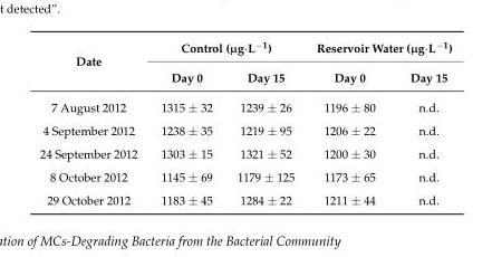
<table><thead><tr><td rowspan="2">Date</td><td colspan="2">Control (µg·L<sup>−1</sup>)</td><td colspan="2">Reservoir Water (µg·L<sup>−1</sup>)</td></tr><tr><td>Day 0</td><td>Day 15</td><td>Day 0</td><td>Day 15</td></tr></thead><tbody><tr><td>7 August 2012</td><td>1315 ± 32</td><td>1239 ± 26</td><td>1196 ± 80</td><td>n.d.</td></tr><tr><td>4 September 2012</td><td>1238 ± 35</td><td>1219 ± 95</td><td>1206 ± 22</td><td>n.d.</td></tr><tr><td>24 September 2012</td><td>1303 ± 15</td><td>1321 ± 52</td><td>1200 ± 30</td><td>n.d.</td></tr><tr><td>8 October 2012</td><td>1145 ± 69</td><td>1179 ± 125</td><td>1173 ± 65</td><td>n.d.</td></tr><tr><td>29 October 2012</td><td>1183 ± 45</td><td>1284 ± 22</td><td>1211 ± 44</td><td>n.d.</td></tr></tbody></table>